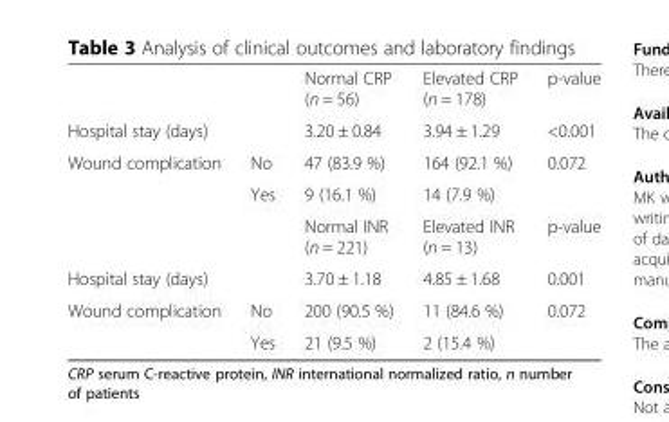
<table><thead><tr><td></td><td></td><td>Normal CRP (n = 56)</td><td>Elevated CRP (n = 178)</td><td>p-value</td></tr></thead><tbody><tr><td colspan="2">Hospital stay (days)</td><td>3.20 ± 0.84</td><td>3.94 ± 1.29</td><td>&lt;0.001</td></tr><tr><td rowspan="2">Wound complication</td><td>No</td><td>47 (83.9 %)</td><td>164 (92.1 %)</td><td>0.072</td></tr><tr><td>Yes</td><td>9 (16.1 %)</td><td>14 (7.9 %)</td><td></td></tr><tr><td colspan="2"></td><td>Normal INR (n = 221)</td><td>Elevated INR (n = 13)</td><td>p-value</td></tr><tr><td colspan="2">Hospital stay (days)</td><td>3.70 ± 1.18</td><td>4.85 ± 1.68</td><td>0.001</td></tr><tr><td rowspan="2">Wound complication</td><td>No</td><td>200 (90.5 %)</td><td>11 (84.6 %)</td><td>0.072</td></tr><tr><td>Yes</td><td>21 (9.5 %)</td><td>2 (15.4 %)</td><td></td></tr></tbody></table>